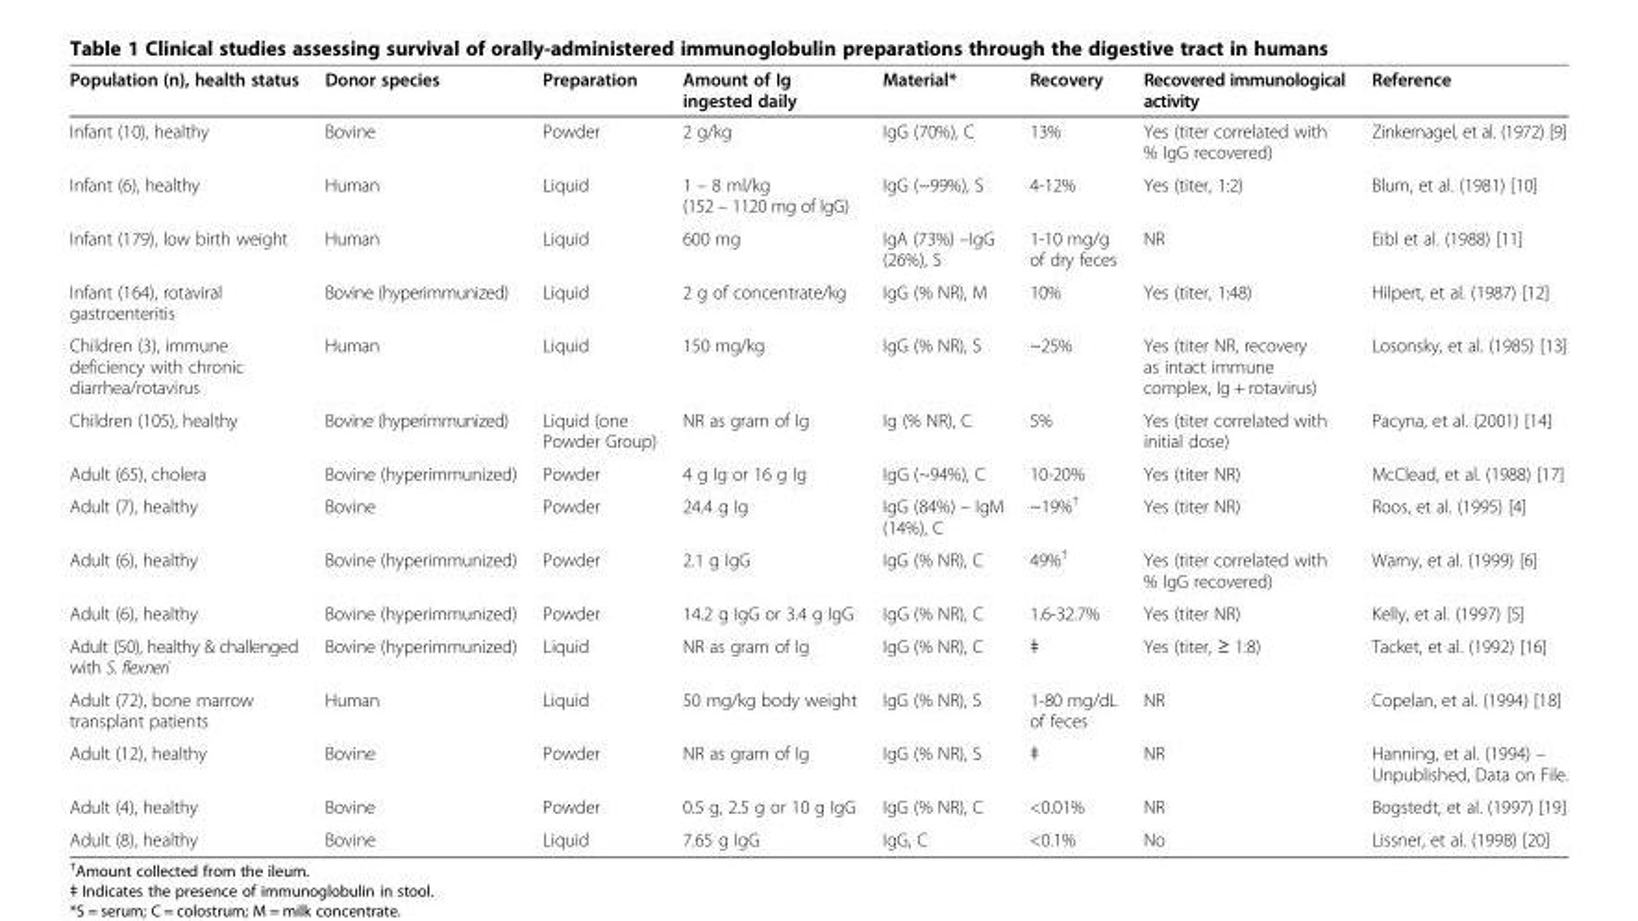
<table><thead><tr><td>Population (n), health status</td><td>Donor species</td><td>Preparation</td><td>Amount of Ig ingested daily</td><td>Material*</td><td>Recovery</td><td>Recovered immunological activity</td><td>Reference</td></tr></thead><tbody><tr><td>Infant (10), healthy</td><td>Bovine</td><td>Powder</td><td>2 g/kg</td><td>IgG (70%), C</td><td>13%</td><td>Yes (titer correlated with % IgG recovered)</td><td>Zinkernagel, et al. (1972) [9]</td></tr><tr><td>Infant (6), healthy</td><td>Human</td><td>Liquid</td><td>1 – 8 ml/kg (152 – 1120 mg of IgG)</td><td>IgG (~99%), S</td><td>4-12%</td><td>Yes (titer, 1:2)</td><td>Blum, et al. (1981) [10]</td></tr><tr><td>Infant (179), low birth weight</td><td>Human</td><td>Liquid</td><td>600 mg</td><td>IgA (73%) –IgG (26%), S</td><td>1-10 mg/g of dry feces</td><td>NR</td><td>Eibl et al. (1988) [11]</td></tr><tr><td>Infant (164), rotaviral gastroenteritis</td><td>Bovine (hyperimmunized)</td><td>Liquid</td><td>2 g of concentrate/kg</td><td>IgG (% NR), M</td><td>10%</td><td>Yes (titer, 1:48)</td><td>Hilpert, et al. (1987) [12]</td></tr><tr><td>Children (3), immune deficiency with chronic diarrhea/rotavirus</td><td>Human</td><td>Liquid</td><td>150 mg/kg</td><td>IgG (% NR), S</td><td>~25%</td><td>Yes (titer NR, recovery as intact immune complex, Ig + rotavirus)</td><td>Losonsky, et al. (1985) [13]</td></tr><tr><td>Children (105), healthy</td><td>Bovine (hyperimmunized)</td><td>Liquid (one Powder Group)</td><td>NR as gram of Ig</td><td>Ig (% NR), C</td><td>5%</td><td>Yes (titer correlated with initial dose)</td><td>Pacyna, et al. (2001) [14]</td></tr><tr><td>Adult (65), cholera</td><td>Bovine (hyperimmunized)</td><td>Powder</td><td>4 g Ig or 16 g Ig</td><td>IgG (~94%), C</td><td>10-20%</td><td>Yes (titer NR)</td><td>McClead, et al. (1988) [17]</td></tr><tr><td>Adult (7), healthy</td><td>Bovine</td><td>Powder</td><td>24.4 g Ig</td><td>IgG (84%) – IgM (14%), C</td><td>~19%<sup>†</sup></td><td>Yes (titer NR)</td><td>Roos, et al. (1995) [4]</td></tr><tr><td>Adult (6), healthy</td><td>Bovine (hyperimmunized)</td><td>Powder</td><td>2.1 g IgG</td><td>IgG (% NR), C</td><td>49%<sup>†</sup></td><td>Yes (titer correlated with % IgG recovered)</td><td>Warny, et al. (1999) [6]</td></tr><tr><td>Adult (6), healthy</td><td>Bovine (hyperimmunized)</td><td>Powder</td><td>14.2 g IgG or 3.4 g IgG</td><td>IgG (% NR), C</td><td>1.6-32.7%</td><td>Yes (titer NR)</td><td>Kelly, et al. (1997) [5]</td></tr><tr><td>Adult (50), healthy &amp; challenged with S. flexneri</td><td>Bovine (hyperimmunized)</td><td>Liquid</td><td>NR as gram of Ig</td><td>IgG (% NR), C</td><td>ǂ</td><td>Yes (titer, ≥ 1:8)</td><td>Tacket, et al. (1992) [16]</td></tr><tr><td>Adult (72), bone marrow transplant patients</td><td>Human</td><td>Liquid</td><td>50 mg/kg body weight</td><td>IgG (% NR), S</td><td>1-80 mg/dL of feces</td><td>NR</td><td>Copelan, et al. (1994) [18]</td></tr><tr><td>Adult (12), healthy</td><td>Bovine</td><td>Powder</td><td>NR as gram of Ig</td><td>IgG (% NR), S</td><td>ǂ</td><td>NR</td><td>Hanning, et al. (1994) – Unpublished, Data on File.</td></tr><tr><td>Adult (4), healthy</td><td>Bovine</td><td>Powder</td><td>0.5 g, 2.5 g or 10 g IgG</td><td>IgG (% NR), C</td><td>&lt;0.01%</td><td>NR</td><td>Bogstedt, et al. (1997) [19]</td></tr><tr><td>Adult (8), healthy</td><td>Bovine</td><td>Liquid</td><td>7.65 g IgG</td><td>IgG, C</td><td>&lt;0.1%</td><td>No</td><td>Lissner, et al. (1998) [20]</td></tr></tbody></table>